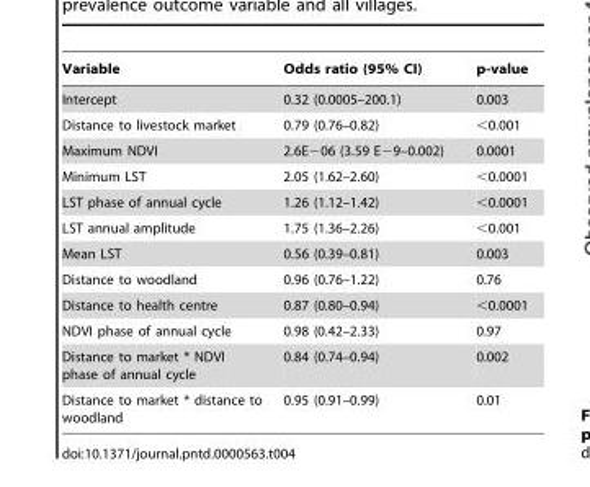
<table><thead><tr><td>Variable</td><td>Odds ratio (95% CI)</td><td>p-value</td></tr></thead><tbody><tr><td>Intercept</td><td>0.32 (0.0005–200.1)</td><td>0.003</td></tr><tr><td>Distance to livestock market</td><td>0.79 (0.76–0.82)</td><td>&lt;0.001</td></tr><tr><td>Maximum NDVI</td><td>2.6E−06 (3.59 E−9–0.002)</td><td>0.0001</td></tr><tr><td>Minimum LST</td><td>2.05 (1.62–2.60)</td><td>&lt;0.0001</td></tr><tr><td>LST phase of annual cycle</td><td>1.26 (1.12–1.42)</td><td>&lt;0.0001</td></tr><tr><td>LST annual amplitude</td><td>1.75 (1.36–2.26)</td><td>&lt;0.001</td></tr><tr><td>Mean LST</td><td>0.56 (0.39–0.81)</td><td>0.003</td></tr><tr><td>Distance to woodland</td><td>0.96 (0.76–1.22)</td><td>0.76</td></tr><tr><td>Distance to health centre</td><td>0.87 (0.80–0.94)</td><td>&lt;0.0001</td></tr><tr><td>NDVI phase of annual cycle</td><td>0.98 (0.42–2.33)</td><td>0.97</td></tr><tr><td>Distance to market * NDVI phase of annual cycle</td><td>0.84 (0.74–0.94)</td><td>0.002</td></tr><tr><td>Distance to market * distance to woodland</td><td>0.95 (0.91–0.99)</td><td>0.01</td></tr></tbody></table>